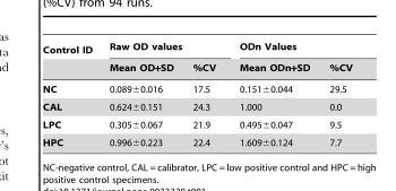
<table><thead><tr><td rowspan="2">Control ID</td><td colspan="2">Raw OD values</td><td colspan="2">ODn Values</td></tr><tr><td>Mean OD+SD</td><td>%CV</td><td>Mean ODn+SD</td><td>%CV</td></tr></thead><tbody><tr><td>NC</td><td>0.089±0.016</td><td>17.5</td><td>0.151±0.044</td><td>29.5</td></tr><tr><td>CAL</td><td>0.624±0.151</td><td>24.3</td><td>1.000</td><td>0.0</td></tr><tr><td>LPC</td><td>0.305±0.067</td><td>21.9</td><td>0.495±0.047</td><td>9.5</td></tr><tr><td>HPC</td><td>0.996±0.223</td><td>22.4</td><td>1.609±0.124</td><td>7.7</td></tr></tbody></table>